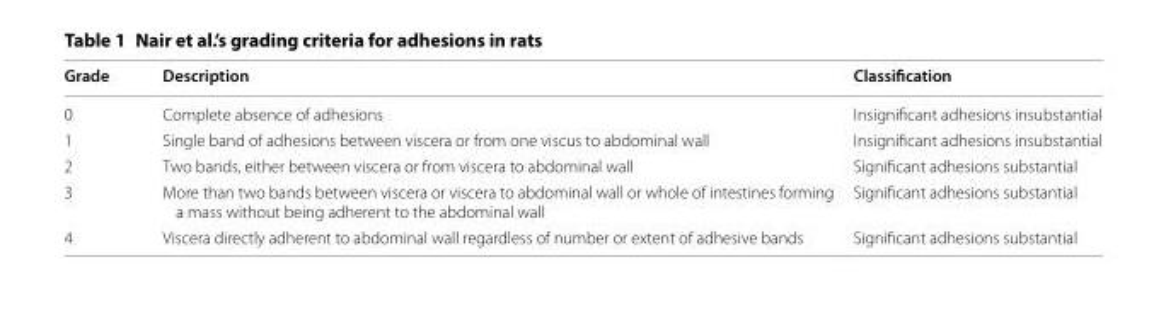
<table><thead><tr><td>Grade</td><td>Description</td><td>Classification</td></tr></thead><tbody><tr><td>0</td><td>Complete absence of adhesions</td><td>Insignificant adhesions insubstantial</td></tr><tr><td>1</td><td>Single band of adhesions between viscera or from one viscus to abdominal wall</td><td>Insignificant adhesions insubstantial</td></tr><tr><td>2</td><td>Two bands, either between viscera or from viscera to abdominal wall</td><td>Significant adhesions substantial</td></tr><tr><td>3</td><td>More than two bands between viscera or viscera to abdominal wall or whole of intestines forming a mass without being adherent to the abdominal wall</td><td>Significant adhesions substantial</td></tr><tr><td>4</td><td>Viscera directly adherent to abdominal wall regardless of number or extent of adhesive bands</td><td>Significant adhesions substantial</td></tr></tbody></table>